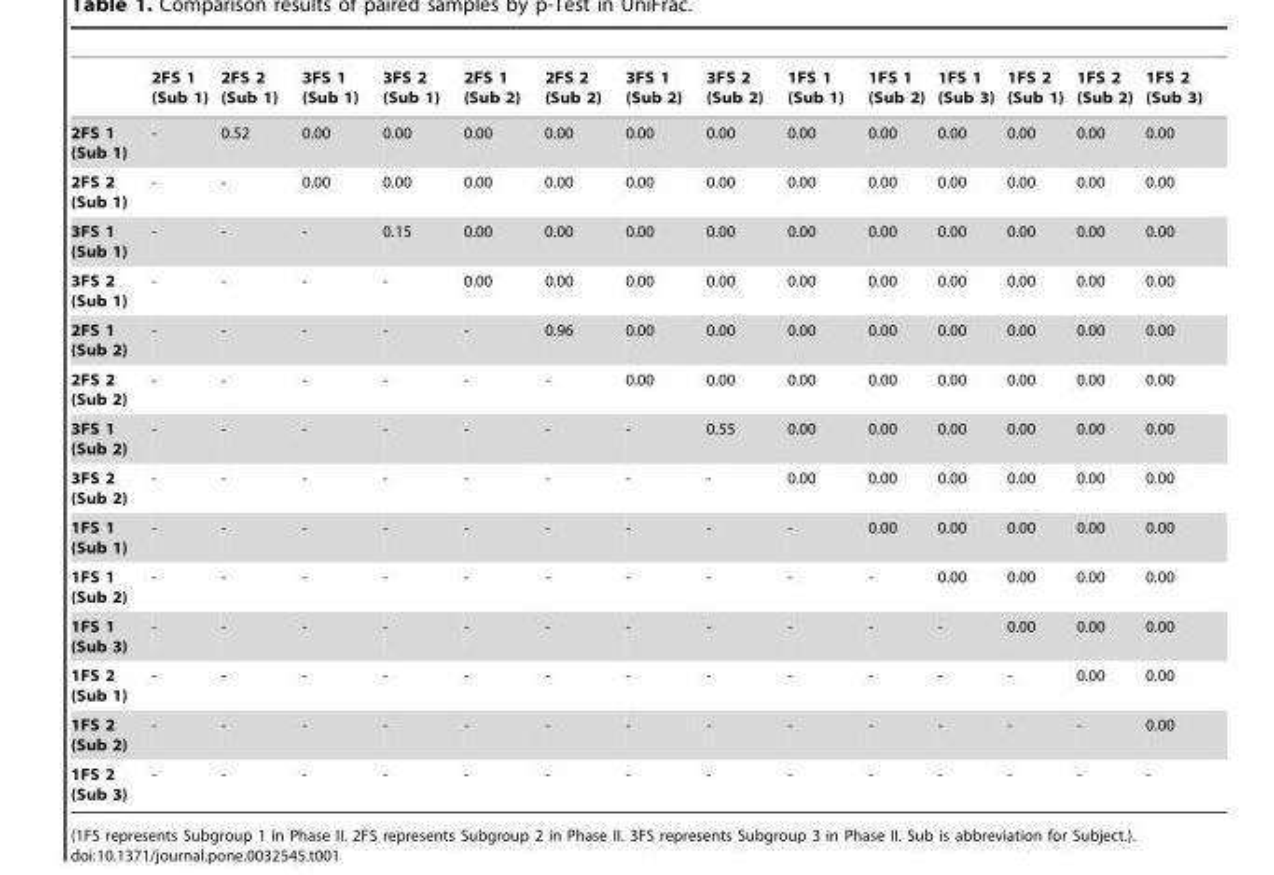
<table><thead><tr><td></td><td>2FS 1 (Sub 1)</td><td>2FS 2 (Sub 1)</td><td>3FS 1 (Sub 1)</td><td>3FS 2 (Sub 1)</td><td>2FS 1 (Sub 2)</td><td>2FS 2 (Sub 2)</td><td>3FS 1 (Sub 2)</td><td>3FS 2 (Sub 2)</td><td>1FS 1 (Sub 1)</td><td>1FS 1 (Sub 2)</td><td>1FS 1 (Sub 3)</td><td>1FS 2 (Sub 1)</td><td>1FS 2 (Sub 2)</td><td>1FS 2 (Sub 3)</td></tr></thead><tbody><tr><td>2FS 1 (Sub 1)</td><td>-</td><td>0.52</td><td>0.00</td><td>0.00</td><td>0.00</td><td>0.00</td><td>0.00</td><td>0.00</td><td>0.00</td><td>0.00</td><td>0.00</td><td>0.00</td><td>0.00</td><td>0.00</td></tr><tr><td>2FS 2 (Sub 1)</td><td>-</td><td>-</td><td>0.00</td><td>0.00</td><td>0.00</td><td>0.00</td><td>0.00</td><td>0.00</td><td>0.00</td><td>0.00</td><td>0.00</td><td>0.00</td><td>0.00</td><td>0.00</td></tr><tr><td>3FS 1 (Sub 1)</td><td>-</td><td>-</td><td>-</td><td>0.15</td><td>0.00</td><td>0.00</td><td>0.00</td><td>0.00</td><td>0.00</td><td>0.00</td><td>0.00</td><td>0.00</td><td>0.00</td><td>0.00</td></tr><tr><td>3FS 2 (Sub 1)</td><td>-</td><td>-</td><td>-</td><td>-</td><td>0.00</td><td>0.00</td><td>0.00</td><td>0.00</td><td>0.00</td><td>0.00</td><td>0.00</td><td>0.00</td><td>0.00</td><td>0.00</td></tr><tr><td>2FS 1 (Sub 2)</td><td>-</td><td>-</td><td>-</td><td>-</td><td>-</td><td>0.96</td><td>0.00</td><td>0.00</td><td>0.00</td><td>0.00</td><td>0.00</td><td>0.00</td><td>0.00</td><td>0.00</td></tr><tr><td>2FS 2 (Sub 2)</td><td>-</td><td>-</td><td>-</td><td>-</td><td>-</td><td>-</td><td>0.00</td><td>0.00</td><td>0.00</td><td>0.00</td><td>0.00</td><td>0.00</td><td>0.00</td><td>0.00</td></tr><tr><td>3FS 1 (Sub 2)</td><td>-</td><td>-</td><td>-</td><td>-</td><td>-</td><td>-</td><td>-</td><td>0.55</td><td>0.00</td><td>0.00</td><td>0.00</td><td>0.00</td><td>0.00</td><td>0.00</td></tr><tr><td>3FS 2 (Sub 2)</td><td>-</td><td>-</td><td>-</td><td>-</td><td>-</td><td>-</td><td>-</td><td>-</td><td>0.00</td><td>0.00</td><td>0.00</td><td>0.00</td><td>0.00</td><td>0.00</td></tr><tr><td>1FS 1 (Sub 1)</td><td>-</td><td>-</td><td>-</td><td>-</td><td>-</td><td>-</td><td>-</td><td>-</td><td>-</td><td>0.00</td><td>0.00</td><td>0.00</td><td>0.00</td><td>0.00</td></tr><tr><td>1FS 1 (Sub 2)</td><td>-</td><td>-</td><td>-</td><td>-</td><td>-</td><td>-</td><td>-</td><td>-</td><td>-</td><td>-</td><td>0.00</td><td>0.00</td><td>0.00</td><td>0.00</td></tr><tr><td>1FS 1 (Sub 3)</td><td>-</td><td>-</td><td>-</td><td>-</td><td>-</td><td>-</td><td>-</td><td>-</td><td>-</td><td>-</td><td>-</td><td>0.00</td><td>0.00</td><td>0.00</td></tr><tr><td>1FS 2 (Sub 1)</td><td>-</td><td>-</td><td>-</td><td>-</td><td>-</td><td>-</td><td>-</td><td>-</td><td>-</td><td>-</td><td>-</td><td>-</td><td>0.00</td><td>0.00</td></tr><tr><td>1FS 2 (Sub 2)</td><td>-</td><td>-</td><td>-</td><td>-</td><td>-</td><td>-</td><td>-</td><td>-</td><td>-</td><td>-</td><td>-</td><td>-</td><td>-</td><td>0.00</td></tr><tr><td>1FS 2 (Sub 3)</td><td>-</td><td>-</td><td>-</td><td>-</td><td>-</td><td>-</td><td>-</td><td>-</td><td>-</td><td>-</td><td>-</td><td>-</td><td>-</td><td>-</td></tr></tbody></table>